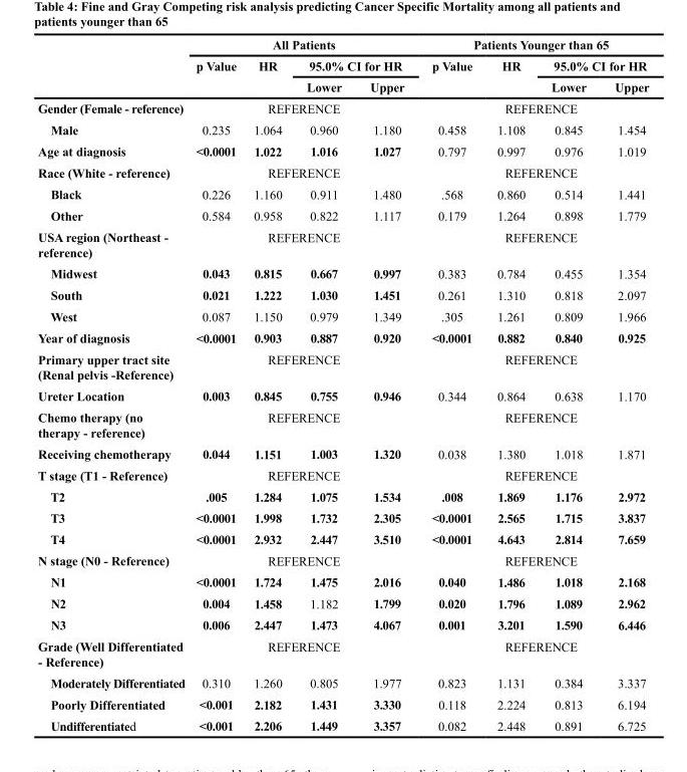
<table><thead><tr><td rowspan="3"></td><td colspan="4">All Patients</td><td colspan="4">Patients Younger than 65</td></tr><tr><td rowspan="2">p Value</td><td rowspan="2">HR</td><td colspan="2">95.0% CI for HR</td><td rowspan="2">p Value</td><td rowspan="2">HR</td><td colspan="2">95.0% CI for HR</td></tr><tr><td>Lower</td><td>Upper</td><td>Lower</td><td>Upper</td></tr></thead><tbody><tr><td>Gender (Female - reference)</td><td colspan="4">REFERENCE</td><td colspan="4">REFERENCE</td></tr><tr><td>Male</td><td>0.235</td><td>1.064</td><td>0.960</td><td>1.180</td><td>0.458</td><td>1.108</td><td>0.845</td><td>1.454</td></tr><tr><td>Age at diagnosis</td><td>&lt;0.0001</td><td>1.022</td><td>1.016</td><td>1.027</td><td>0.797</td><td>0.997</td><td>0.976</td><td>1.019</td></tr><tr><td>Race (White - reference)</td><td colspan="4">REFERENCE</td><td colspan="4">REFERENCE</td></tr><tr><td>Black</td><td>0.226</td><td>1.160</td><td>0.911</td><td>1.480</td><td>.568</td><td>0.860</td><td>0.514</td><td>1.441</td></tr><tr><td>Other</td><td>0.584</td><td>0.958</td><td>0.822</td><td>1.117</td><td>0.179</td><td>1.264</td><td>0.898</td><td>1.779</td></tr><tr><td>USA region (Northeast - reference)</td><td colspan="4">REFERENCE</td><td colspan="4">REFERENCE</td></tr><tr><td>Midwest</td><td>0.043</td><td>0.815</td><td>0.667</td><td>0.997</td><td>0.383</td><td>0.784</td><td>0.455</td><td>1.354</td></tr><tr><td>South</td><td>0.021</td><td>1.222</td><td>1.030</td><td>1.451</td><td>0.261</td><td>1.310</td><td>0.818</td><td>2.097</td></tr><tr><td>West</td><td>0.087</td><td>1.150</td><td>0.979</td><td>1.349</td><td>.305</td><td>1.261</td><td>0.809</td><td>1.966</td></tr><tr><td>Year of diagnosis</td><td>&lt;0.0001</td><td>0.903</td><td>0.887</td><td>0.920</td><td>&lt;0.0001</td><td>0.882</td><td>0.840</td><td>0.925</td></tr><tr><td>Primary upper tract site (Renal pelvis -Reference)</td><td colspan="4">REFERENCE</td><td colspan="4">REFERENCE</td></tr><tr><td>Ureter Location</td><td>0.003</td><td>0.845</td><td>0.755</td><td>0.946</td><td>0.344</td><td>0.864</td><td>0.638</td><td>1.170</td></tr><tr><td>Chemo therapy (no therapy - reference)</td><td colspan="4">REFERENCE</td><td colspan="4">REFERENCE</td></tr><tr><td>Receiving chemotherapy</td><td>0.044</td><td>1.151</td><td>1.003</td><td>1.320</td><td>0.038</td><td>1.380</td><td>1.018</td><td>1.871</td></tr><tr><td>T stage (T1 - Reference)</td><td colspan="4">REFERENCE</td><td colspan="4">REFERENCE</td></tr><tr><td>T2</td><td>.005</td><td>1.284</td><td>1.075</td><td>1.534</td><td>.008</td><td>1.869</td><td>1.176</td><td>2.972</td></tr><tr><td>T3</td><td>&lt;0.0001</td><td>1.998</td><td>1.732</td><td>2.305</td><td>&lt;0.0001</td><td>2.565</td><td>1.715</td><td>3.837</td></tr><tr><td>T4</td><td>&lt;0.0001</td><td>2.932</td><td>2.447</td><td>3.510</td><td>&lt;0.0001</td><td>4.643</td><td>2.814</td><td>7.659</td></tr><tr><td>N stage (N0 - Reference)</td><td colspan="4">REFERENCE</td><td colspan="4">REFERENCE</td></tr><tr><td>N1</td><td>&lt;0.0001</td><td>1.724</td><td>1.475</td><td>2.016</td><td>0.040</td><td>1.486</td><td>1.018</td><td>2.168</td></tr><tr><td>N2</td><td>0.004</td><td>1.458</td><td>1.182</td><td>1.799</td><td>0.020</td><td>1.796</td><td>1.089</td><td>2.962</td></tr><tr><td>N3</td><td>0.006</td><td>2.447</td><td>1.473</td><td>4.067</td><td>0.001</td><td>3.201</td><td>1.590</td><td>6.446</td></tr><tr><td>Grade (Well Differentiated - Reference)</td><td colspan="4">REFERENCE</td><td colspan="4">REFERENCE</td></tr><tr><td>Moderately Differentiated</td><td>0.310</td><td>1.260</td><td>0.805</td><td>1.977</td><td>0.823</td><td>1.131</td><td>0.384</td><td>3.337</td></tr><tr><td>Poorly Differentiated</td><td>&lt;0.001</td><td>2.182</td><td>1.431</td><td>3.330</td><td>0.118</td><td>2.224</td><td>0.813</td><td>6.194</td></tr><tr><td>Undifferentiated</td><td>&lt;0.001</td><td>2.206</td><td>1.449</td><td>3.357</td><td>0.082</td><td>2.448</td><td>0.891</td><td>6.725</td></tr></tbody></table>